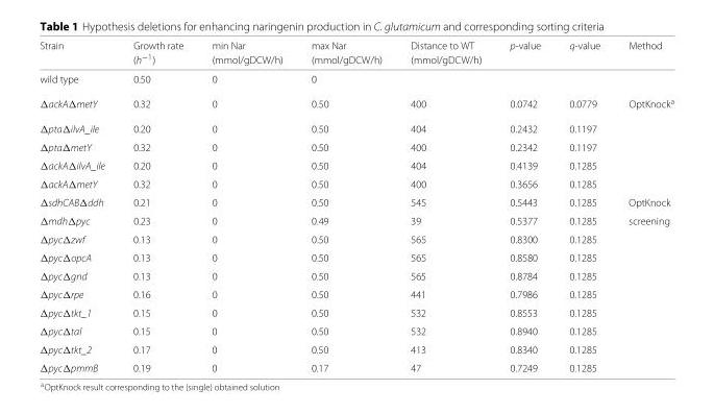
<table><thead><tr><td rowspan="2">Strain</td><td rowspan="2">Growth rate (h<sup>−1</sup>)</td><td rowspan="2">min Nar (mmol/gDCW/h)</td><td rowspan="2">max Nar (mmol/gDCW/h)</td><td rowspan="2">Distance to WT (mmol/gDCW/h)</td><td rowspan="2">p-value</td><td rowspan="2">q-value</td><td rowspan="2">Method</td></tr><tr></tr></thead><tbody><tr><td>wild type</td><td>0.50</td><td>0</td><td>0</td><td></td><td></td><td></td><td></td></tr><tr><td>ΔackAΔmetY</td><td>0.32</td><td>0</td><td>0.50</td><td>400</td><td>0.0742</td><td>0.0779</td><td>OptKnock<sup>a</sup></td></tr><tr><td>ΔptaΔilvA_ile</td><td>0.20</td><td>0</td><td>0.50</td><td>404</td><td>0.2432</td><td>0.1197</td><td></td></tr><tr><td>ΔptaΔmetY</td><td>0.32</td><td>0</td><td>0.50</td><td>400</td><td>0.2342</td><td>0.1197</td><td></td></tr><tr><td>ΔackAΔilvA_ile</td><td>0.20</td><td>0</td><td>0.50</td><td>404</td><td>0.4139</td><td>0.1285</td><td></td></tr><tr><td>ΔackAΔmetY</td><td>0.32</td><td>0</td><td>0.50</td><td>400</td><td>0.3656</td><td>0.1285</td><td></td></tr><tr><td>ΔsdhCABΔddh</td><td>0.21</td><td>0</td><td>0.50</td><td>545</td><td>0.5443</td><td>0.1285</td><td>OptKnock</td></tr><tr><td>ΔmdhΔpyc</td><td>0.23</td><td>0</td><td>0.49</td><td>39</td><td>0.5377</td><td>0.1285</td><td>screening</td></tr><tr><td>ΔpycΔzwf</td><td>0.13</td><td>0</td><td>0.50</td><td>565</td><td>0.8300</td><td>0.1285</td><td></td></tr><tr><td>ΔpycΔopcA</td><td>0.13</td><td>0</td><td>0.50</td><td>565</td><td>0.8580</td><td>0.1285</td><td></td></tr><tr><td>ΔpycΔgnd</td><td>0.13</td><td>0</td><td>0.50</td><td>565</td><td>0.8784</td><td>0.1285</td><td></td></tr><tr><td>ΔpycΔrpe</td><td>0.16</td><td>0</td><td>0.50</td><td>441</td><td>0.7986</td><td>0.1285</td><td></td></tr><tr><td>ΔpycΔtkt_1</td><td>0.15</td><td>0</td><td>0.50</td><td>532</td><td>0.8553</td><td>0.1285</td><td></td></tr><tr><td>ΔpycΔtal</td><td>0.15</td><td>0</td><td>0.50</td><td>532</td><td>0.8940</td><td>0.1285</td><td></td></tr><tr><td>ΔpycΔtkt_2</td><td>0.17</td><td>0</td><td>0.50</td><td>413</td><td>0.8340</td><td>0.1285</td><td></td></tr><tr><td>ΔpycΔpmmB</td><td>0.19</td><td>0</td><td>0.17</td><td>47</td><td>0.7249</td><td>0.1285</td><td></td></tr></tbody></table>